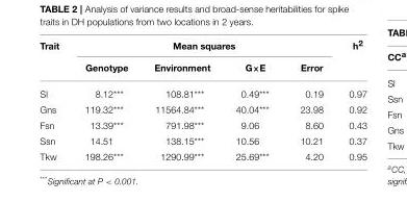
<table><thead><tr><td rowspan="2">Trait</td><td colspan="4">Mean squares</td><td rowspan="2">h<sup>2</sup></td></tr><tr><td>Genotype</td><td>Environment</td><td>G×E</td><td>Error</td></tr></thead><tbody><tr><td>Sl</td><td>8.12***</td><td>108.81***</td><td>0.49***</td><td>0.19</td><td>0.97</td></tr><tr><td>Gns</td><td>119.32***</td><td>11564.84***</td><td>40.04***</td><td>23.98</td><td>0.92</td></tr><tr><td>Fsn</td><td>13.39***</td><td>791.98***</td><td>9.06</td><td>8.60</td><td>0.43</td></tr><tr><td>Ssn</td><td>14.51</td><td>138.15***</td><td>10.56</td><td>10.21</td><td>0.37</td></tr><tr><td>Tkw</td><td>198.26***</td><td>1290.99***</td><td>25.69***</td><td>4.20</td><td>0.95</td></tr></tbody></table>